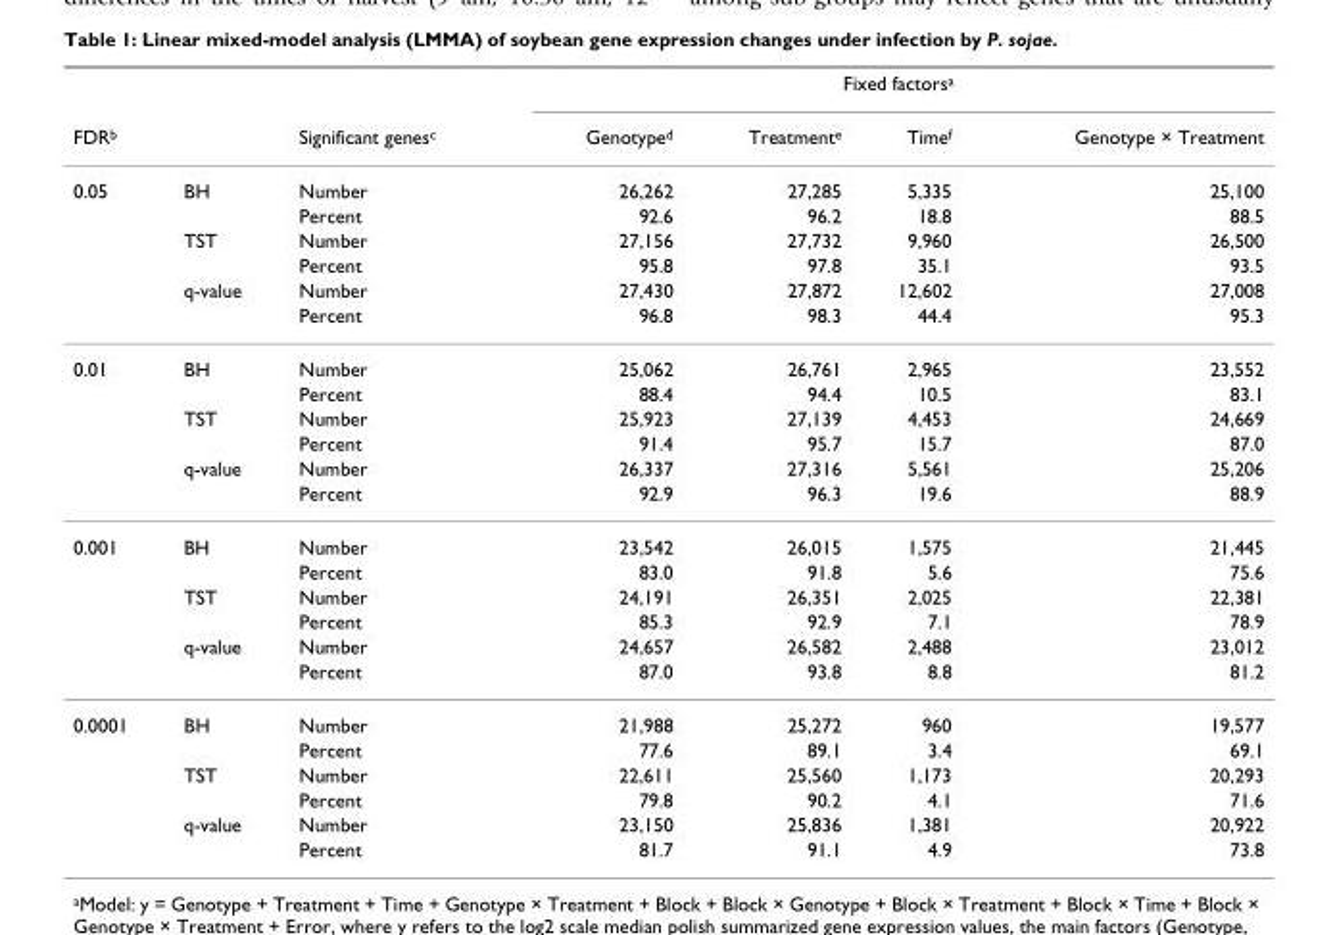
<table><thead><tr><td rowspan="2">FDR<sup>b</sup></td><td rowspan="2"></td><td rowspan="2">Significant genes<sup>c</sup></td><td colspan="4">Fixed factors<sup>a</sup></td></tr><tr><td>Genotype<sup>d</sup></td><td>Treatment<sup>e</sup></td><td>Time<sup>f</sup></td><td>Genotype × Treatment</td></tr></thead><tbody><tr><td rowspan="6">0.05</td><td>BH</td><td>Number</td><td>26,262</td><td>27,285</td><td>5,335</td><td>25,100</td></tr><tr><td></td><td>Percent</td><td>92.6</td><td>96.2</td><td>18.8</td><td>88.5</td></tr><tr><td>TST</td><td>Number</td><td>27,156</td><td>27,732</td><td>9,960</td><td>26,500</td></tr><tr><td></td><td>Percent</td><td>95.8</td><td>97.8</td><td>35.1</td><td>93.5</td></tr><tr><td>q-value</td><td>Number</td><td>27,430</td><td>27,872</td><td>12,602</td><td>27,008</td></tr><tr><td></td><td>Percent</td><td>96.8</td><td>98.3</td><td>44.4</td><td>95.3</td></tr><tr><td rowspan="6">0.01</td><td>BH</td><td>Number</td><td>25,062</td><td>26,761</td><td>2,965</td><td>23,552</td></tr><tr><td></td><td>Percent</td><td>88.4</td><td>94.4</td><td>10.5</td><td>83.1</td></tr><tr><td>TST</td><td>Number</td><td>25,923</td><td>27,139</td><td>4,453</td><td>24,669</td></tr><tr><td></td><td>Percent</td><td>91.4</td><td>95.7</td><td>15.7</td><td>87.0</td></tr><tr><td>q-value</td><td>Number</td><td>26,337</td><td>27,316</td><td>5,561</td><td>25,206</td></tr><tr><td></td><td>Percent</td><td>92.9</td><td>96.3</td><td>19.6</td><td>88.9</td></tr><tr><td rowspan="6">0.001</td><td>BH</td><td>Number</td><td>23,542</td><td>26,015</td><td>1,575</td><td>21,445</td></tr><tr><td></td><td>Percent</td><td>83.0</td><td>91.8</td><td>5.6</td><td>75.6</td></tr><tr><td>TST</td><td>Number</td><td>24,191</td><td>26,351</td><td>2,025</td><td>22,381</td></tr><tr><td></td><td>Percent</td><td>85.3</td><td>92.9</td><td>7.1</td><td>78.9</td></tr><tr><td>q-value</td><td>Number</td><td>24,657</td><td>26,582</td><td>2,488</td><td>23,012</td></tr><tr><td></td><td>Percent</td><td>87.0</td><td>93.8</td><td>8.8</td><td>81.2</td></tr><tr><td rowspan="6">0.0001</td><td>BH</td><td>Number</td><td>21,988</td><td>25,272</td><td>960</td><td>19,577</td></tr><tr><td></td><td>Percent</td><td>77.6</td><td>89.1</td><td>3.4</td><td>69.1</td></tr><tr><td>TST</td><td>Number</td><td>22,611</td><td>25,560</td><td>1,173</td><td>20,293</td></tr><tr><td></td><td>Percent</td><td>79.8</td><td>90.2</td><td>4.1</td><td>71.6</td></tr><tr><td>q-value</td><td>Number</td><td>23,150</td><td>25,836</td><td>1,381</td><td>20,922</td></tr><tr><td></td><td>Percent</td><td>81.7</td><td>91.1</td><td>4.9</td><td>73.8</td></tr></tbody></table>